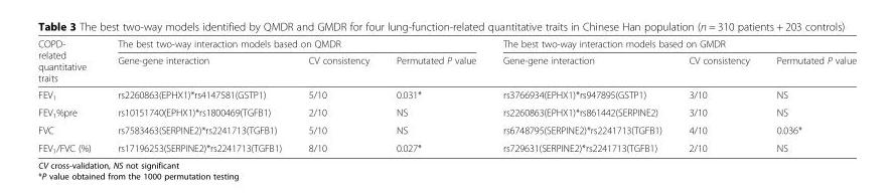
<table><thead><tr><td rowspan="2">COPD- related quantitative traits</td><td colspan="3">The best two-way interaction models based on QMDR</td><td colspan="3">The best two-way interaction models based on GMDR</td></tr><tr><td>Gene-gene interaction</td><td>CV consistency</td><td>Permutated P value</td><td>Gene-gene interaction</td><td>CV consistency</td><td>Permutated P value</td></tr></thead><tbody><tr><td>FEV<sub>1</sub></td><td>rs2260863(EPHX1)*rs4147581(GSTP1)</td><td>5/10</td><td>0.031*</td><td>rs3766934(EPHX1)*rs947895(GSTP1)</td><td>3/10</td><td>NS</td></tr><tr><td>FEV<sub>1</sub>%pre</td><td>rs10151740(EPHX1)*rs1800469(TGFB1)</td><td>2/10</td><td>NS</td><td>rs2260863(EPHX1)*rs861442(SERPINE2)</td><td>3/10</td><td>NS</td></tr><tr><td>FVC</td><td>rs7583463(SERPINE2)*rs2241713(TGFB1)</td><td>5/10</td><td>NS</td><td>rs6748795(SERPINE2)*rs2241713(TGFB1)</td><td>4/10</td><td>0.036*</td></tr><tr><td>FEV<sub>1</sub>/FVC (%)</td><td>rs17196253(SERPINE2)*rs2241713(TGFB1)</td><td>8/10</td><td>0.027*</td><td>rs729631(SERPINE2)*rs2241713(TGFB1)</td><td>2/10</td><td>NS</td></tr></tbody></table>